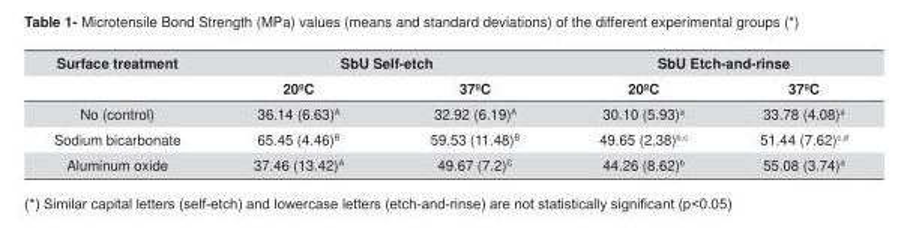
<table><thead><tr><td rowspan="2">Surface treatment</td><td colspan="2">SbU Self-etch</td><td colspan="2">SbU Etch-and-rinse</td></tr><tr><td>20ºC</td><td>37ºC</td><td>20ºC</td><td>37ºC</td></tr></thead><tbody><tr><td>No (control)</td><td>36.14 (6.63)<sup>A</sup></td><td>32.92 (6.19)<sup>A</sup></td><td>30.10 (5.93)<sup>a</sup></td><td>33.78 (4.08)<sup>a</sup></td></tr><tr><td>Sodium bicarbonate</td><td>65.45 (4.46)<sup>B</sup></td><td>59.53 (11.48)<sup>B</sup></td><td>49.65 (2.38)<sup>b,c</sup></td><td>51.44 (7.62)<sup>c,d</sup></td></tr><tr><td>Aluminum oxide</td><td>37.46 (13.42)<sup>A</sup></td><td>49.67 (7.2)<sup>C</sup></td><td>44.26 (8.62)<sup>b</sup></td><td>55.08 (3.74)<sup>d</sup></td></tr></tbody></table>